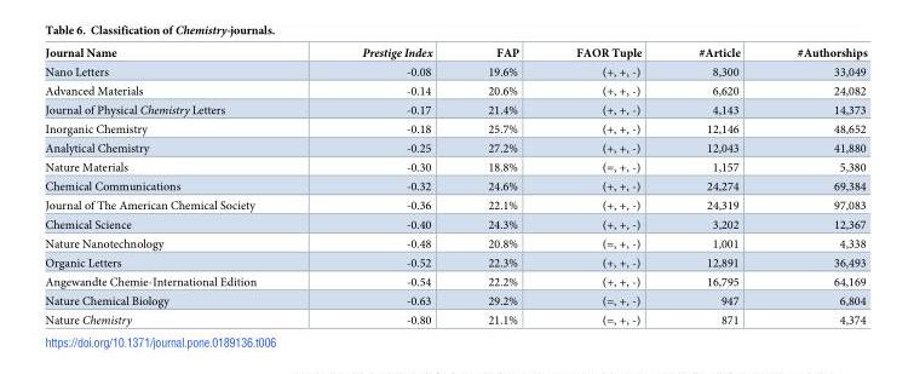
<table><thead><tr><td>Journal Name</td><td>Prestige Index</td><td>FAP</td><td>FAOR Tuple</td><td>#Article</td><td>#Authorships</td></tr></thead><tbody><tr><td>Nano Letters</td><td>-0.08</td><td>19.6%</td><td>(+, +, -)</td><td>8,300</td><td>33,049</td></tr><tr><td>Advanced Materials</td><td>-0.14</td><td>20.6%</td><td>(+, +, -)</td><td>6,620</td><td>24,082</td></tr><tr><td>Journal of Physical Chemistry Letters</td><td>-0.17</td><td>21.4%</td><td>(+, +, -)</td><td>4,143</td><td>14,373</td></tr><tr><td>Inorganic Chemistry</td><td>-0.18</td><td>25.7%</td><td>(+, +, -)</td><td>12,146</td><td>48,652</td></tr><tr><td>Analytical Chemistry</td><td>-0.25</td><td>27.2%</td><td>(+, +, -)</td><td>12,043</td><td>41,880</td></tr><tr><td>Nature Materials</td><td>-0.30</td><td>18.8%</td><td>(=, +, -)</td><td>1,157</td><td>5,380</td></tr><tr><td>Chemical Communications</td><td>-0.32</td><td>24.6%</td><td>(+, +, -)</td><td>24,274</td><td>69,384</td></tr><tr><td>Journal of The American Chemical Society</td><td>-0.36</td><td>22.1%</td><td>(+, +, -)</td><td>24,319</td><td>97,083</td></tr><tr><td>Chemical Science</td><td>-0.40</td><td>24.3%</td><td>(+, +, -)</td><td>3,202</td><td>12,367</td></tr><tr><td>Nature Nanotechnology</td><td>-0.48</td><td>20.8%</td><td>(=, +, -)</td><td>1,001</td><td>4,338</td></tr><tr><td>Organic Letters</td><td>-0.52</td><td>22.3%</td><td>(+, +, -)</td><td>12,891</td><td>36,493</td></tr><tr><td>Angewandte Chemie-International Edition</td><td>-0.54</td><td>22.2%</td><td>(+, +, -)</td><td>16,795</td><td>64,169</td></tr><tr><td>Nature Chemical Biology</td><td>-0.63</td><td>29.2%</td><td>(=, +, -)</td><td>947</td><td>6,804</td></tr><tr><td>Nature Chemistry</td><td>-0.80</td><td>21.1%</td><td>(=, +, -)</td><td>871</td><td>4,374</td></tr></tbody></table>